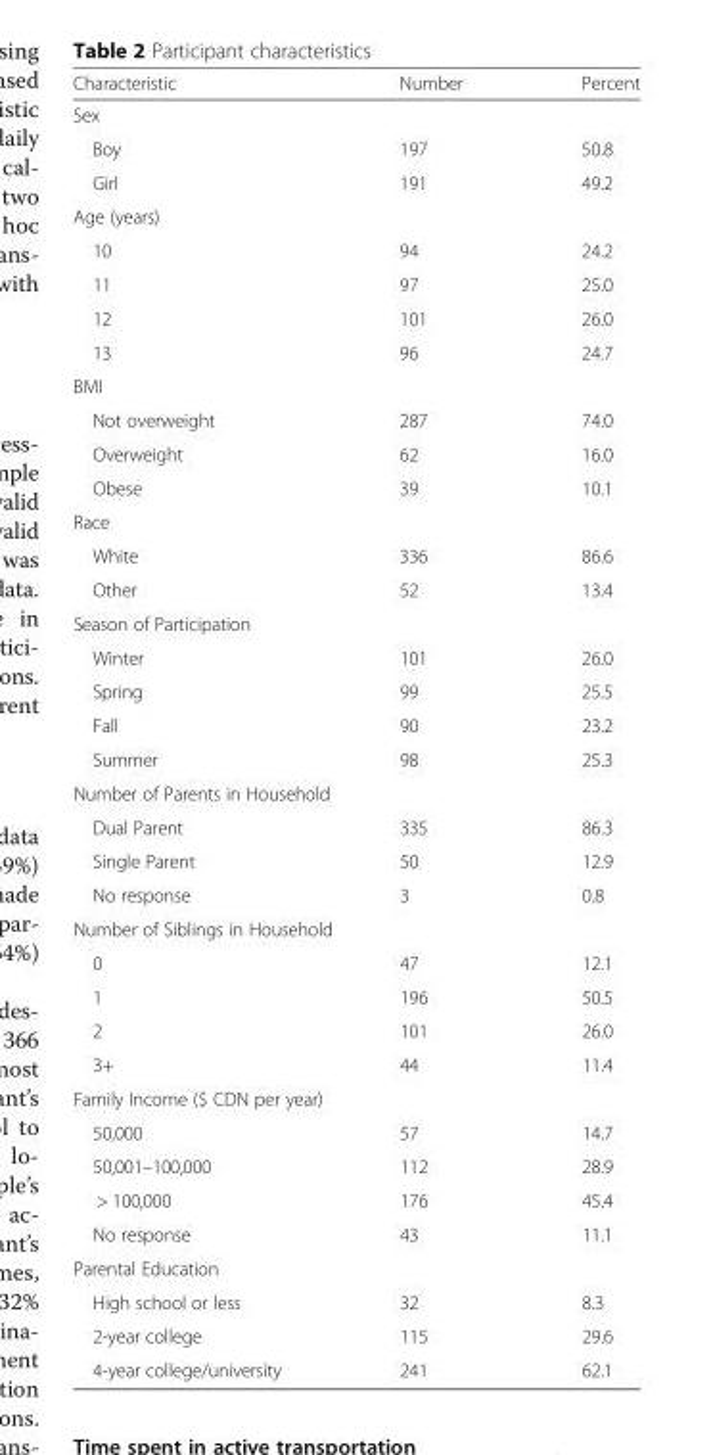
<table><thead><tr><td>Characteristic</td><td>Number</td><td>Percent</td></tr></thead><tbody><tr><td colspan="3">Sex</td></tr><tr><td>Boy</td><td>197</td><td>50.8</td></tr><tr><td>Girl</td><td>191</td><td>49.2</td></tr><tr><td colspan="3">Age (years)</td></tr><tr><td>10</td><td>94</td><td>24.2</td></tr><tr><td>11</td><td>97</td><td>25.0</td></tr><tr><td>12</td><td>101</td><td>26.0</td></tr><tr><td>13</td><td>96</td><td>24.7</td></tr><tr><td colspan="3">BMI</td></tr><tr><td>Not overweight</td><td>287</td><td>74.0</td></tr><tr><td>Overweight</td><td>62</td><td>16.0</td></tr><tr><td>Obese</td><td>39</td><td>10.1</td></tr><tr><td colspan="3">Race</td></tr><tr><td>White</td><td>336</td><td>86.6</td></tr><tr><td>Other</td><td>52</td><td>13.4</td></tr><tr><td colspan="3">Season of Participation</td></tr><tr><td>Winter</td><td>101</td><td>26.0</td></tr><tr><td>Spring</td><td>99</td><td>25.5</td></tr><tr><td>Fall</td><td>90</td><td>23.2</td></tr><tr><td>Summer</td><td>98</td><td>25.3</td></tr><tr><td colspan="3">Number of Parents in Household</td></tr><tr><td>Dual Parent</td><td>335</td><td>86.3</td></tr><tr><td>Single Parent</td><td>50</td><td>12.9</td></tr><tr><td>No response</td><td>3</td><td>0.8</td></tr><tr><td colspan="3">Number of Siblings in Household</td></tr><tr><td>0</td><td>47</td><td>12.1</td></tr><tr><td>1</td><td>196</td><td>50.5</td></tr><tr><td>2</td><td>101</td><td>26.0</td></tr><tr><td>3+</td><td>44</td><td>11.4</td></tr><tr><td colspan="3">Family Income ($ CDN per year)</td></tr><tr><td>50,000</td><td>57</td><td>14.7</td></tr><tr><td>50,001–100,000</td><td>112</td><td>28.9</td></tr><tr><td>&gt; 100,000</td><td>176</td><td>45.4</td></tr><tr><td>No response</td><td>43</td><td>11.1</td></tr><tr><td colspan="3">Parental Education</td></tr><tr><td>High school or less</td><td>32</td><td>8.3</td></tr><tr><td>2-year college</td><td>115</td><td>29.6</td></tr><tr><td>4-year college/university</td><td>241</td><td>62.1</td></tr></tbody></table>